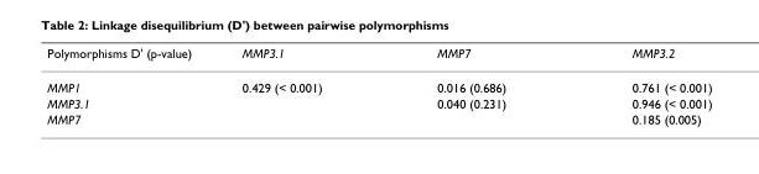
<table><thead><tr><td>Polymorphisms D&#x27; (p-value)</td><td>MMP3.1</td><td>MMP7</td><td>MMP3.2</td></tr></thead><tbody><tr><td>MMP1</td><td>0.429 (&lt; 0.001)</td><td>0.016 (0.686)</td><td>0.761 (&lt; 0.001)</td></tr><tr><td>MMP3.1</td><td></td><td>0.040 (0.231)</td><td>0.946 (&lt; 0.001)</td></tr><tr><td>MMP7</td><td></td><td></td><td>0.185 (0.005)</td></tr></tbody></table>